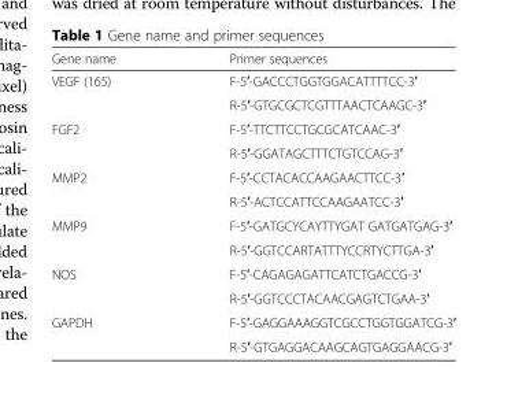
<table><thead><tr><td>Gene name</td><td>Primer sequences</td></tr></thead><tbody><tr><td rowspan="2">VEGF (165)</td><td>F-5′-GACCCTGGTGGACATTTTCC-3′</td></tr><tr><td>R-5′-GTGCGCTCGTTTAACTCAAGC-3′</td></tr><tr><td rowspan="2">FGF2</td><td>F-5′-TTCTTCCTGCGCATCAAC-3′</td></tr><tr><td>R-5′-GGATAGCTTTCTGTCCAG-3′</td></tr><tr><td rowspan="2">MMP2</td><td>F-5′-CCTACACCAAGAACTTCC-3′</td></tr><tr><td>R-5′-ACTCCATTCCAAGAATCC-3′</td></tr><tr><td rowspan="2">MMP9</td><td>F-5′-GATGCYCAYTTYGAT GATGATGAG-3′</td></tr><tr><td>R-5′-GGTCCARTATTTYCCRTYCTTGA-3′</td></tr><tr><td rowspan="2">NOS</td><td>F-5′-CAGAGAGATTCATCTGACCG-3′</td></tr><tr><td>R-5′-GGTCCCTACAACGAGTCTGAA-3′</td></tr><tr><td rowspan="2">GAPDH</td><td>F-5′-GAGGAAAGGTCGCCTGGTGGATCG-3′</td></tr><tr><td>R-5′-GTGAGGACAAGCAGTGAGGAACG-3′</td></tr></tbody></table>